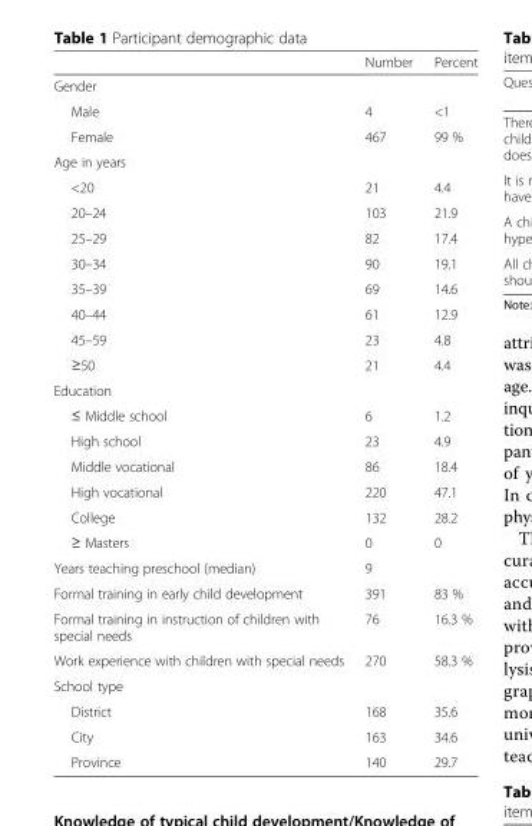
<table><thead><tr><td></td><td>Number</td><td>Percent</td></tr></thead><tbody><tr><td colspan="3">Gender</td></tr><tr><td>Male</td><td>4</td><td>&lt;1</td></tr><tr><td>Female</td><td>467</td><td>99 %</td></tr><tr><td colspan="3">Age in years</td></tr><tr><td>&lt;20</td><td>21</td><td>4.4</td></tr><tr><td>20–24</td><td>103</td><td>21.9</td></tr><tr><td>25–29</td><td>82</td><td>17.4</td></tr><tr><td>30–34</td><td>90</td><td>19.1</td></tr><tr><td>35–39</td><td>69</td><td>14.6</td></tr><tr><td>40–44</td><td>61</td><td>12.9</td></tr><tr><td>45–59</td><td>23</td><td>4.8</td></tr><tr><td>≥50</td><td>21</td><td>4.4</td></tr><tr><td colspan="3">Education</td></tr><tr><td>≤ Middle school</td><td>6</td><td>1.2</td></tr><tr><td>High school</td><td>23</td><td>4.9</td></tr><tr><td>Middle vocational</td><td>86</td><td>18.4</td></tr><tr><td>High vocational</td><td>220</td><td>47.1</td></tr><tr><td>College</td><td>132</td><td>28.2</td></tr><tr><td>≥ Masters</td><td>0</td><td>0</td></tr><tr><td>Years teaching preschool (median)</td><td>9</td><td></td></tr><tr><td>Formal training in early child development</td><td>391</td><td>83 %</td></tr><tr><td>Formal training in instruction of children with special needs</td><td>76</td><td>16.3 %</td></tr><tr><td>Work experience with children with special needs</td><td>270</td><td>58.3 %</td></tr><tr><td colspan="3">School type</td></tr><tr><td>District</td><td>168</td><td>35.6</td></tr><tr><td>City</td><td>163</td><td>34.6</td></tr><tr><td>Province</td><td>140</td><td>29.7</td></tr></tbody></table>